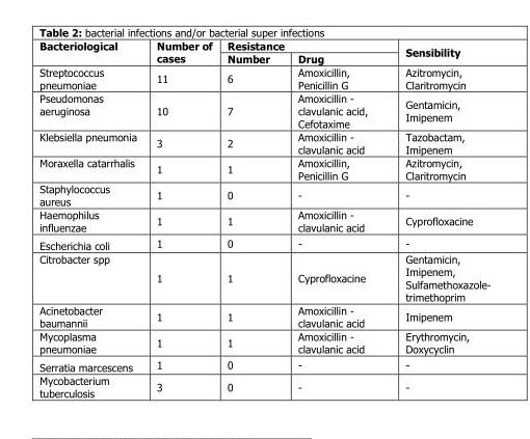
<table><thead><tr><td rowspan="2">Bacteriological</td><td rowspan="2">Number of cases</td><td colspan="2">Resistance</td><td rowspan="2">Sensibility</td></tr><tr><td>Number</td><td>Drug</td></tr></thead><tbody><tr><td>Streptococcus pneumoniae</td><td>11</td><td>6</td><td>Amoxicillin, Penicillin G</td><td>Azitromycin, Claritromycin</td></tr><tr><td>Pseudomonas aeruginosa</td><td>10</td><td>7</td><td>Amoxicillin - clavulanic acid, Cefotaxime</td><td>Gentamicin, Imipenem</td></tr><tr><td>Klebsiella pneumonia</td><td>3</td><td>2</td><td>Amoxicillin - clavulanic acid</td><td>Tazobactam, Imipenem</td></tr><tr><td>Moraxella catarrhalis</td><td>1</td><td>1</td><td>Amoxicillin, Penicillin G</td><td>Azitromycin, Claritromycin</td></tr><tr><td>Staphylococcus aureus</td><td>1</td><td>0</td><td>-</td><td>-</td></tr><tr><td>Haemophilus influenzae</td><td>1</td><td>1</td><td>Amoxicillin - clavulanic acid</td><td>Cyprofloxacine</td></tr><tr><td>Escherichia coli</td><td>1</td><td>0</td><td>-</td><td>-</td></tr><tr><td>Citrobacter spp</td><td>1</td><td>1</td><td>Cyprofloxacine</td><td>Gentamicin, Imipenem, Sulfamethoxazole- trimethoprim</td></tr><tr><td>Acinetobacter baumannii</td><td>1</td><td>1</td><td>Amoxicillin - clavulanic acid</td><td>Imipenem</td></tr><tr><td>Mycoplasma pneumoniae</td><td>1</td><td>1</td><td>Amoxicillin - clavulanic acid</td><td>Erythromycin, Doxycyclin</td></tr><tr><td>Serratia marcescens</td><td>1</td><td>0</td><td>-</td><td>-</td></tr><tr><td>Mycobacterium tuberculosis</td><td>3</td><td>0</td><td>-</td><td>-</td></tr></tbody></table>